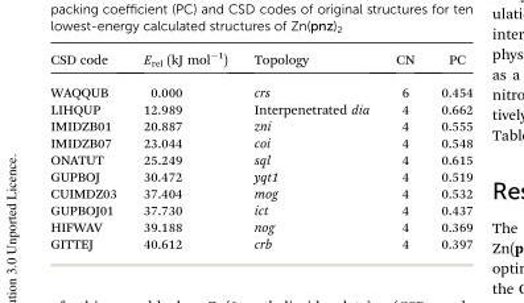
<table><thead><tr><td>CSD code</td><td>E<sub>rel</sub> (kJ mol<sup>–1</sup>)</td><td>Topology</td><td>CN</td><td>PC</td></tr></thead><tbody><tr><td>WAQQUB</td><td>0.000</td><td>crs</td><td>6</td><td>0.454</td></tr><tr><td>LIHQUP</td><td>12.989</td><td>Interpenetrated dia</td><td>4</td><td>0.662</td></tr><tr><td>IMIDZB01</td><td>20.887</td><td>zni</td><td>4</td><td>0.555</td></tr><tr><td>IMIDZB07</td><td>23.044</td><td>coi</td><td>4</td><td>0.548</td></tr><tr><td>ONATUT</td><td>25.249</td><td>sql</td><td>4</td><td>0.615</td></tr><tr><td>GUPBOJ</td><td>30.472</td><td>yqt1</td><td>4</td><td>0.519</td></tr><tr><td>CUIMDZ03</td><td>37.404</td><td>mog</td><td>4</td><td>0.532</td></tr><tr><td>GUPBOJ01</td><td>37.730</td><td>ict</td><td>4</td><td>0.437</td></tr><tr><td>HIFWAV</td><td>39.188</td><td>nog</td><td>4</td><td>0.369</td></tr><tr><td>GITTEJ</td><td>40.612</td><td>crb</td><td>4</td><td>0.397</td></tr></tbody></table>